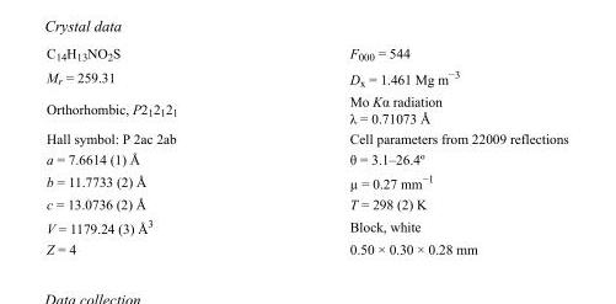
<table><tbody><tr><td>C<sub>14</sub>H<sub>13</sub>NO<sub>2</sub>S</td><td>F<sub>000</sub> = 544</td></tr><tr><td>M<sub>r</sub> = 259.31</td><td>D<sub>x</sub> = 1.461 Mg m<sup>−3</sup></td></tr><tr><td>Orthorhombic, P2<sub>1</sub>2<sub>1</sub>2<sub>1</sub></td><td>Mo Kα radiation λ = 0.71073 Å</td></tr><tr><td>Hall symbol: P 2ac 2ab</td><td>Cell parameters from 22009 reflections</td></tr><tr><td>a = 7.6614 (1) Å</td><td>θ = 3.1–26.4º</td></tr><tr><td>b = 11.7733 (2) Å</td><td>µ = 0.27 mm<sup>−1</sup></td></tr><tr><td>c = 13.0736 (2) Å</td><td>T = 298 (2) K</td></tr><tr><td>V = 1179.24 (3) Å<sup>3</sup></td><td>Block, white</td></tr><tr><td>Z = 4</td><td>0.50 × 0.30 × 0.28 mm</td></tr></tbody></table>